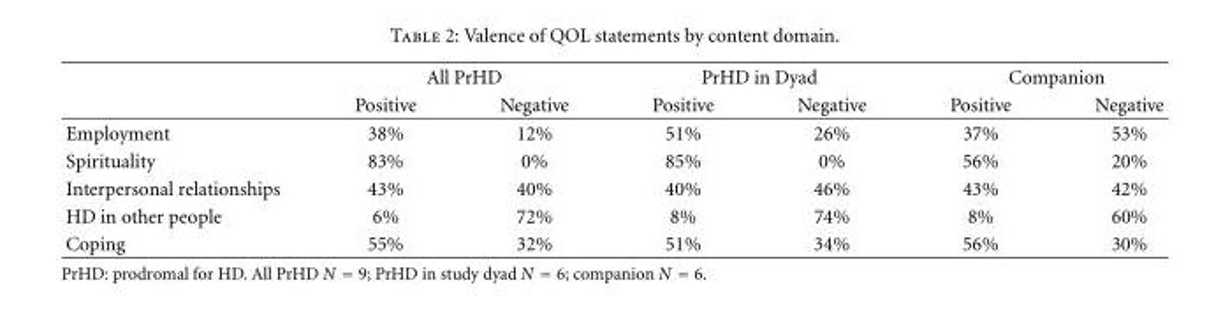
<table><thead><tr><td rowspan="2"></td><td colspan="2">All PrHD</td><td colspan="2">PrHD in Dyad</td><td colspan="2">Companion</td></tr><tr><td>Positive</td><td>Negative</td><td>Positive</td><td>Negative</td><td>Positive</td><td>Negative</td></tr></thead><tbody><tr><td>Employment</td><td>38%</td><td>12%</td><td>51%</td><td>26%</td><td>37%</td><td>53%</td></tr><tr><td>Spirituality</td><td>83%</td><td>0%</td><td>85%</td><td>0%</td><td>56%</td><td>20%</td></tr><tr><td>Interpersonal relationships</td><td>43%</td><td>40%</td><td>40%</td><td>46%</td><td>43%</td><td>42%</td></tr><tr><td>HD in other people</td><td>6%</td><td>72%</td><td>8%</td><td>74%</td><td>8%</td><td>60%</td></tr><tr><td>Coping</td><td>55%</td><td>32%</td><td>51%</td><td>34%</td><td>56%</td><td>30%</td></tr></tbody></table>